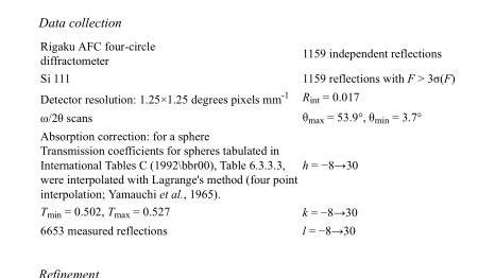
<table><tbody><tr><td>Rigaku AFC four-circle diffractometer</td><td>1159 independent reflections</td></tr><tr><td>Si 111</td><td>1159 reflections with F &gt; 3σ(F)</td></tr><tr><td>Detector resolution: 1.25×1.25 degrees pixels mm<sup>-1</sup></td><td>R<sub>int</sub> = 0.017</td></tr><tr><td>ω/2θ scans</td><td>θ<sub>max</sub> = 53.9°, θ<sub>min</sub> = 3.7°</td></tr><tr><td>Absorption correction: for a sphere Transmission coefficients for spheres tabulated in International Tables C (1992\bbr00), Table 6.3.3.3, were interpolated with Lagrange&#x27;s method (four point interpolation; Yamauchi et al., 1965).</td><td>h = −8→30</td></tr><tr><td>T<sub>min</sub> = 0.502, T<sub>max</sub> = 0.527</td><td>k = −8→30</td></tr><tr><td>6653 measured reflections</td><td>l = −8→30</td></tr></tbody></table>